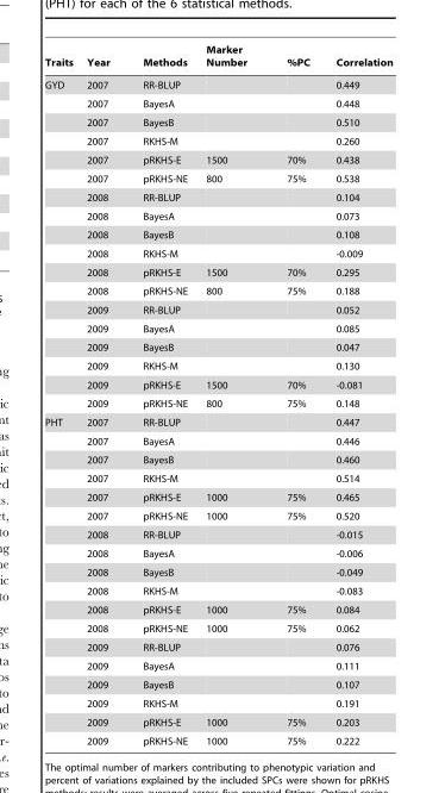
<table><thead><tr><td>Traits</td><td>Year</td><td>Methods</td><td>Marker Number</td><td>%PC</td><td>Correlation</td></tr></thead><tbody><tr><td rowspan="18">GYD</td><td>2007</td><td>RR-BLUP</td><td></td><td></td><td>0.449</td></tr><tr><td>2007</td><td>BayesA</td><td></td><td></td><td>0.448</td></tr><tr><td>2007</td><td>BayesB</td><td></td><td></td><td>0.510</td></tr><tr><td>2007</td><td>RKHS-M</td><td></td><td></td><td>0.260</td></tr><tr><td>2007</td><td>pRKHS-E</td><td>1500</td><td>70%</td><td>0.438</td></tr><tr><td>2007</td><td>pRKHS-NE</td><td>800</td><td>75%</td><td>0.538</td></tr><tr><td>2008</td><td>RR-BLUP</td><td></td><td></td><td>0.104</td></tr><tr><td>2008</td><td>BayesA</td><td></td><td></td><td>0.073</td></tr><tr><td>2008</td><td>BayesB</td><td></td><td></td><td>0.108</td></tr><tr><td>2008</td><td>RKHS-M</td><td></td><td></td><td>-0.009</td></tr><tr><td>2008</td><td>pRKHS-E</td><td>1500</td><td>70%</td><td>0.295</td></tr><tr><td>2008</td><td>pRKHS-NE</td><td>800</td><td>75%</td><td>0.188</td></tr><tr><td>2009</td><td>RR-BLUP</td><td></td><td></td><td>0.052</td></tr><tr><td>2009</td><td>BayesA</td><td></td><td></td><td>0.085</td></tr><tr><td>2009</td><td>BayesB</td><td></td><td></td><td>0.047</td></tr><tr><td>2009</td><td>RKHS-M</td><td></td><td></td><td>0.130</td></tr><tr><td>2009</td><td>pRKHS-E</td><td>1500</td><td>70%</td><td>-0.081</td></tr><tr><td>2009</td><td>pRKHS-NE</td><td>800</td><td>75%</td><td>0.148</td></tr><tr><td rowspan="18">PHT</td><td>2007</td><td>RR-BLUP</td><td></td><td></td><td>0.447</td></tr><tr><td>2007</td><td>BayesA</td><td></td><td></td><td>0.446</td></tr><tr><td>2007</td><td>BayesB</td><td></td><td></td><td>0.460</td></tr><tr><td>2007</td><td>RKHS-M</td><td></td><td></td><td>0.514</td></tr><tr><td>2007</td><td>pRKHS-E</td><td>1000</td><td>75%</td><td>0.465</td></tr><tr><td>2007</td><td>pRKHS-NE</td><td>1000</td><td>75%</td><td>0.520</td></tr><tr><td>2008</td><td>RR-BLUP</td><td></td><td></td><td>-0.015</td></tr><tr><td>2008</td><td>BayesA</td><td></td><td></td><td>-0.006</td></tr><tr><td>2008</td><td>BayesB</td><td></td><td></td><td>-0.049</td></tr><tr><td>2008</td><td>RKHS-M</td><td></td><td></td><td>-0.083</td></tr><tr><td>2008</td><td>pRKHS-E</td><td>1000</td><td>75%</td><td>0.084</td></tr><tr><td>2008</td><td>pRKHS-NE</td><td>1000</td><td>75%</td><td>0.062</td></tr><tr><td>2009</td><td>RR-BLUP</td><td></td><td></td><td>0.076</td></tr><tr><td>2009</td><td>BayesA</td><td></td><td></td><td>0.111</td></tr><tr><td>2009</td><td>BayesB</td><td></td><td></td><td>0.107</td></tr><tr><td>2009</td><td>RKHS-M</td><td></td><td></td><td>0.191</td></tr><tr><td>2009</td><td>pRKHS-E</td><td>1000</td><td>75%</td><td>0.203</td></tr><tr><td>2009</td><td>pRKHS-NE</td><td>1000</td><td>75%</td><td>0.222</td></tr></tbody></table>